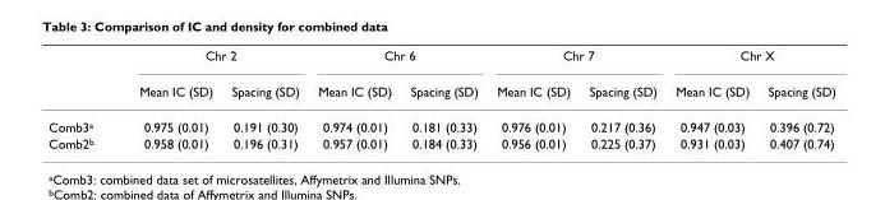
<table><thead><tr><td rowspan="2"></td><td colspan="2">Chr 2</td><td colspan="2">Chr 6</td><td colspan="2">Chr 7</td><td colspan="2">Chr X</td></tr><tr><td>Mean IC (SD)</td><td>Spacing (SD)</td><td>Mean IC (SD)</td><td>Spacing (SD)</td><td>Mean IC (SD)</td><td>Spacing (SD)</td><td>Mean IC (SD)</td><td>Spacing (SD)</td></tr></thead><tbody><tr><td>Comb3a</td><td>0.975 (0.01)</td><td>0.191 (0.30)</td><td>0.974 (0.01)</td><td>0.181 (0.33)</td><td>0.976 (0.01)</td><td>0.217 (0.36)</td><td>0.947 (0.03)</td><td>0.396 (0.72)</td></tr><tr><td>Comb2b</td><td>0.958 (0.01)</td><td>0.196 (0.31)</td><td>0.957 (0.01)</td><td>0.184 (0.33)</td><td>0.956 (0.01)</td><td>0.225 (0.37)</td><td>0.931 (0.03)</td><td>0.407 (0.74)</td></tr></tbody></table>